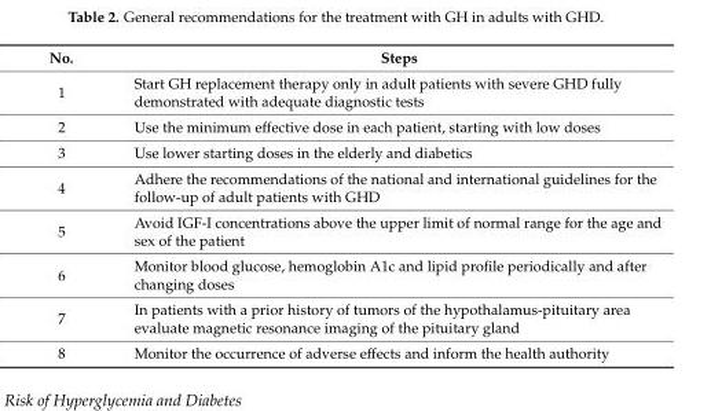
<table><thead><tr><td>No.</td><td>Steps</td></tr></thead><tbody><tr><td>1</td><td>Start GH replacement therapy only in adult patients with severe GHD fully demonstrated with adequate diagnostic tests</td></tr><tr><td>2</td><td>Use the minimum effective dose in each patient, starting with low doses</td></tr><tr><td>3</td><td>Use lower starting doses in the elderly and diabetics</td></tr><tr><td>4</td><td>Adhere the recommendations of the national and international guidelines for the follow-up of adult patients with GHD</td></tr><tr><td>5</td><td>Avoid IGF-I concentrations above the upper limit of normal range for the age and sex of the patient</td></tr><tr><td>6</td><td>Monitor blood glucose, hemoglobin A1c and lipid profile periodically and after changing doses</td></tr><tr><td>7</td><td>In patients with a prior history of tumors of the hypothalamus-pituitary area evaluate magnetic resonance imaging of the pituitary gland</td></tr><tr><td>8</td><td>Monitor the occurrence of adverse effects and inform the health authority</td></tr></tbody></table>